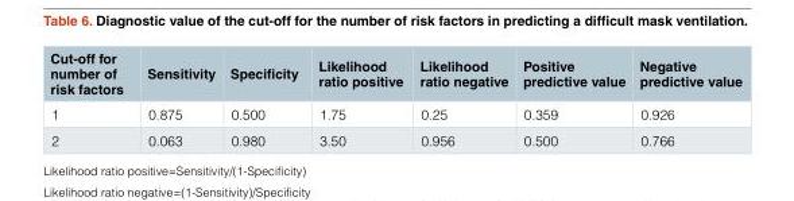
<table><thead><tr><td>Cut-off for number of risk factors</td><td>Sensitivity</td><td>Specificity</td><td>Likelihood ratio positive</td><td>Likelihood ratio negative</td><td>Positive predictive value</td><td>Negative predictive value</td></tr></thead><tbody><tr><td>1</td><td>0.875</td><td>0.500</td><td>1.75</td><td>0.25</td><td>0.359</td><td>0.926</td></tr><tr><td>2</td><td>0.063</td><td>0.980</td><td>3.50</td><td>0.956</td><td>0.500</td><td>0.766</td></tr></tbody></table>